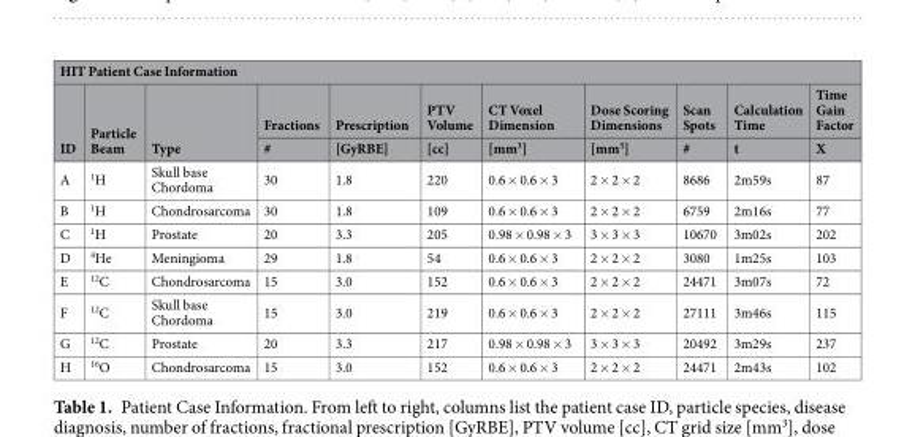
<table><thead><tr><td colspan="11">HIT Patient Case Information</td></tr><tr><td rowspan="2">ID</td><td rowspan="2">Particle Beam</td><td rowspan="2">Type</td><td rowspan="2">Fractions #</td><td rowspan="2">Prescription [GyRBE]</td><td rowspan="2">PTV Volume [cc]</td><td rowspan="2">CT Voxel Dimension [mm<sup>3</sup>]</td><td rowspan="2">Dose Scoring Dimensions [mm<sup>3</sup>]</td><td rowspan="2">Scan Spots #</td><td rowspan="2">Calculation Time t</td><td rowspan="2">Time Gain Factor X</td></tr><tr></tr></thead><tbody><tr><td>A</td><td><sup>1</sup>H</td><td>Skull base Chordoma</td><td>30</td><td>1.8</td><td>220</td><td>0.6 × 0.6 × 3</td><td>2 × 2 × 2</td><td>8686</td><td>2m59s</td><td>87</td></tr><tr><td>B</td><td><sup>1</sup>H</td><td>Chondrosarcoma</td><td>30</td><td>1.8</td><td>109</td><td>0.6 × 0.6 × 3</td><td>2 × 2 × 2</td><td>6759</td><td>2m16s</td><td>77</td></tr><tr><td>C</td><td><sup>1</sup>H</td><td>Prostate</td><td>20</td><td>3.3</td><td>205</td><td>0.98 × 0.98 × 3</td><td>3 × 3 × 3</td><td>10670</td><td>3m02s</td><td>202</td></tr><tr><td>D</td><td><sup>4</sup>He</td><td>Meningioma</td><td>29</td><td>1.8</td><td>54</td><td>0.6 × 0.6 × 3</td><td>2 × 2 × 2</td><td>3080</td><td>1m25s</td><td>103</td></tr><tr><td>E</td><td><sup>12</sup>C</td><td>Chondrosarcoma</td><td>15</td><td>3.0</td><td>152</td><td>0.6 × 0.6 × 3</td><td>2 × 2 × 2</td><td>24471</td><td>3m07s</td><td>72</td></tr><tr><td>F</td><td><sup>12</sup>C</td><td>Skull base Chordoma</td><td>15</td><td>3.0</td><td>219</td><td>0.6 × 0.6 × 3</td><td>2 × 2 × 2</td><td>27111</td><td>3m46s</td><td>115</td></tr><tr><td>G</td><td><sup>12</sup>C</td><td>Prostate</td><td>20</td><td>3.3</td><td>217</td><td>0.98 × 0.98 × 3</td><td>3 × 3 × 3</td><td>20492</td><td>3m29s</td><td>237</td></tr><tr><td>H</td><td><sup>16</sup>O</td><td>Chondrosarcoma</td><td>15</td><td>3.0</td><td>152</td><td>0.6 × 0.6 × 3</td><td>2 × 2 × 2</td><td>24471</td><td>2m43s</td><td>102</td></tr></tbody></table>